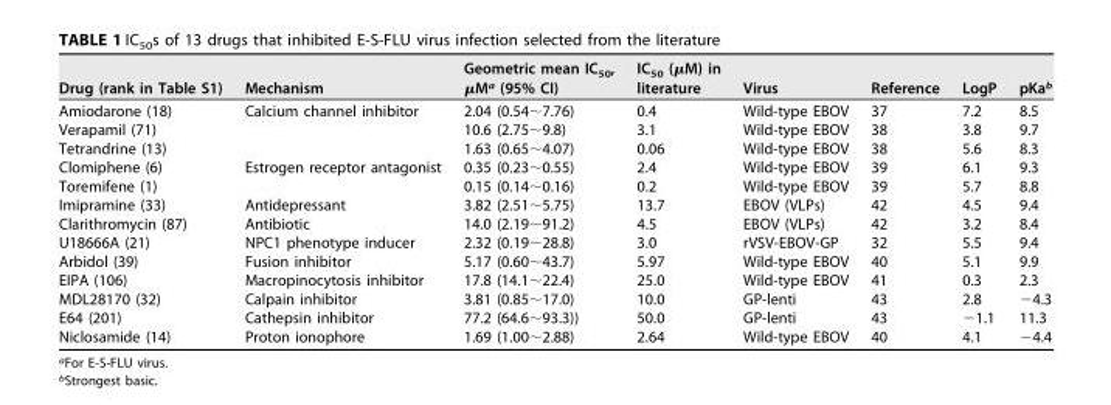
<table><thead><tr><td>Drug (rank in Table S1)</td><td>Mechanism</td><td>Geometric mean IC<sub>50</sub>, μM<sup>a</sup> (95% CI)</td><td>IC<sub>50</sub> (μM) in literature</td><td>Virus</td><td>Reference</td><td>LogP</td><td>pKa<sup>b</sup></td></tr></thead><tbody><tr><td>Amiodarone (18)</td><td rowspan="3">Calcium channel inhibitor</td><td>2.04 (0.54∼7.76)</td><td>0.4</td><td>Wild-type EBOV</td><td>37</td><td>7.2</td><td>8.5</td></tr><tr><td>Verapamil (71)</td><td>10.6 (2.75∼9.8)</td><td>3.1</td><td>Wild-type EBOV</td><td>38</td><td>3.8</td><td>9.7</td></tr><tr><td>Tetrandrine (13)</td><td>1.63 (0.65∼4.07)</td><td>0.06</td><td>Wild-type EBOV</td><td>38</td><td>5.6</td><td>8.3</td></tr><tr><td>Clomiphene (6)</td><td rowspan="2">Estrogen receptor antagonist</td><td>0.35 (0.23∼0.55)</td><td>2.4</td><td>Wild-type EBOV</td><td>39</td><td>6.1</td><td>9.3</td></tr><tr><td>Toremifene (1)</td><td>0.15 (0.14∼0.16)</td><td>0.2</td><td>Wild-type EBOV</td><td>39</td><td>5.7</td><td>8.8</td></tr><tr><td>Imipramine (33)</td><td>Antidepressant</td><td>3.82 (2.51∼5.75)</td><td>13.7</td><td>EBOV (VLPs)</td><td>42</td><td>4.5</td><td>9.4</td></tr><tr><td>Clarithromycin (87)</td><td>Antibiotic</td><td>14.0 (2.19∼91.2)</td><td>4.5</td><td>EBOV (VLPs)</td><td>42</td><td>3.2</td><td>8.4</td></tr><tr><td>U18666A (21)</td><td>NPC1 phenotype inducer</td><td>2.32 (0.19∼28.8)</td><td>3.0</td><td>rVSV-EBOV-GP</td><td>32</td><td>5.5</td><td>9.4</td></tr><tr><td>Arbidol (39)</td><td>Fusion inhibitor</td><td>5.17 (0.60∼43.7)</td><td>5.97</td><td>Wild-type EBOV</td><td>40</td><td>5.1</td><td>9.9</td></tr><tr><td>EIPA (106)</td><td>Macropinocytosis inhibitor</td><td>17.8 (14.1∼22.4)</td><td>25.0</td><td>Wild-type EBOV</td><td>41</td><td>0.3</td><td>2.3</td></tr><tr><td>MDL28170 (32)</td><td>Calpain inhibitor</td><td>3.81 (0.85∼17.0)</td><td>10.0</td><td>GP-lenti</td><td>43</td><td>2.8</td><td>−4.3</td></tr><tr><td>E64 (201)</td><td>Cathepsin inhibitor</td><td>77.2 (64.6∼93.3))</td><td>50.0</td><td>GP-lenti</td><td>43</td><td>−1.1</td><td>11.3</td></tr><tr><td>Niclosamide (14)</td><td>Proton ionophore</td><td>1.69 (1.00∼2.88)</td><td>2.64</td><td>Wild-type EBOV</td><td>40</td><td>4.1</td><td>−4.4</td></tr></tbody></table>